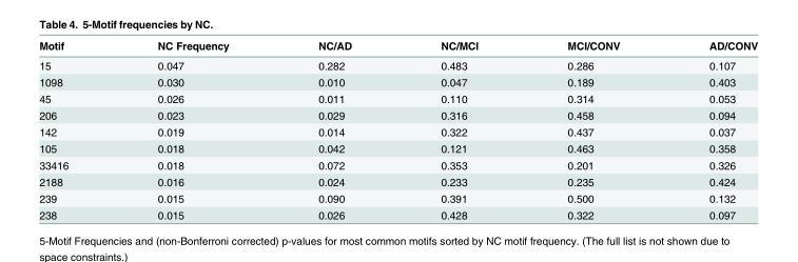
<table><thead><tr><td>Motif</td><td>NC Frequency</td><td>NC/AD</td><td>NC/MCI</td><td>MCI/CONV</td><td>AD/CONV</td></tr></thead><tbody><tr><td>15</td><td>0.047</td><td>0.282</td><td>0.483</td><td>0.286</td><td>0.107</td></tr><tr><td>1098</td><td>0.030</td><td>0.010</td><td>0.047</td><td>0.189</td><td>0.403</td></tr><tr><td>45</td><td>0.026</td><td>0.011</td><td>0.110</td><td>0.314</td><td>0.053</td></tr><tr><td>206</td><td>0.023</td><td>0.029</td><td>0.316</td><td>0.458</td><td>0.094</td></tr><tr><td>142</td><td>0.019</td><td>0.014</td><td>0.322</td><td>0.437</td><td>0.037</td></tr><tr><td>105</td><td>0.018</td><td>0.042</td><td>0.121</td><td>0.463</td><td>0.358</td></tr><tr><td>33416</td><td>0.018</td><td>0.072</td><td>0.353</td><td>0.201</td><td>0.326</td></tr><tr><td>2188</td><td>0.016</td><td>0.024</td><td>0.233</td><td>0.235</td><td>0.424</td></tr><tr><td>239</td><td>0.015</td><td>0.090</td><td>0.391</td><td>0.500</td><td>0.132</td></tr><tr><td>238</td><td>0.015</td><td>0.026</td><td>0.428</td><td>0.322</td><td>0.097</td></tr></tbody></table>